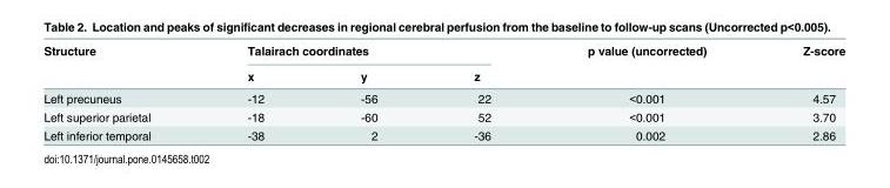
<table><thead><tr><td rowspan="2">Structure</td><td colspan="3">Talairach coordinates</td><td rowspan="2">p value (uncorrected)</td><td rowspan="2">Z-score</td></tr><tr><td>x</td><td>y</td><td>z</td></tr></thead><tbody><tr><td>Left precuneus</td><td>-12</td><td>-56</td><td>22</td><td>&lt;0.001</td><td>4.57</td></tr><tr><td>Left superior parietal</td><td>-18</td><td>-60</td><td>52</td><td>&lt;0.001</td><td>3.70</td></tr><tr><td>Left inferior temporal</td><td>-38</td><td>2</td><td>-36</td><td>0.002</td><td>2.86</td></tr></tbody></table>